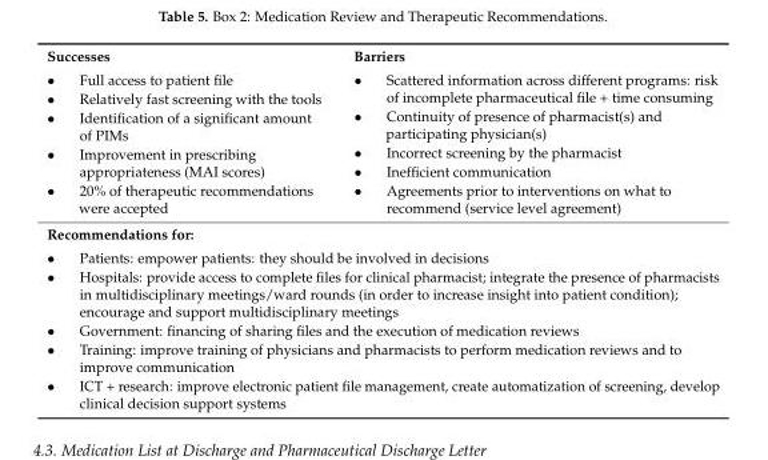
<table><tbody><tr><td>Successes • Full access to patient file • Relatively fast screening with the tools • Identification of a significant amount of PIMs • Improvement in prescribing appropriateness (MAI scores) • 20% of therapeutic recommendations were accepted</td><td>Barriers • Scattered information across different programs: risk of incomplete pharmaceutical file + time consuming • Continuity of presence of pharmacist(s) and participating physician(s) • Incorrect screening by the pharmacist • Inefficient communication • Agreements prior to interventions on what to recommend (service level agreement)</td></tr><tr><td colspan="2">Recommendations for: • Patients: empower patients: they should be involved in decisions • Hospitals: provide access to complete files for clinical pharmacist; integrate the presence of pharmacists in multidisciplinary meetings/ward rounds (in order to increase insight into patient condition); encourage and support multidisciplinary meetings • Government: financing of sharing files and the execution of medication reviews • Training: improve training of physicians and pharmacists to perform medication reviews and to improve communication • ICT + research: improve electronic patient file management, create automatization of screening, develop clinical decision support systems</td></tr></tbody></table>